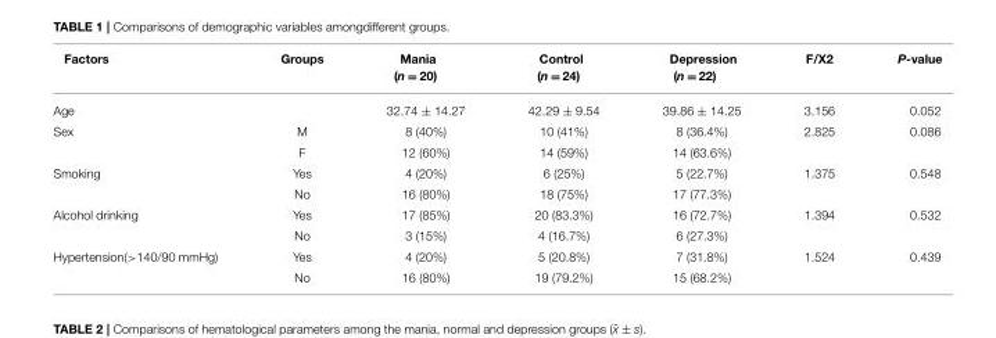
<table><thead><tr><td>Factors</td><td>Groups</td><td>Mania (n = 20)</td><td>Control (n = 24)</td><td>Depression (n = 22)</td><td>F/X2</td><td>P-value</td></tr></thead><tbody><tr><td>Age</td><td></td><td>32.74 ± 14.27</td><td>42.29 ± 9.54</td><td>39.86 ± 14.25</td><td>3.156</td><td>0.052</td></tr><tr><td rowspan="2">Sex</td><td>M</td><td>8 (40%)</td><td>10 (41%)</td><td>8 (36.4%)</td><td>2.825</td><td>0.086</td></tr><tr><td>F</td><td>12 (60%)</td><td>14 (59%)</td><td>14 (63.6%)</td><td></td><td></td></tr><tr><td rowspan="2">Smoking</td><td>Yes</td><td>4 (20%)</td><td>6 (25%)</td><td>5 (22.7%)</td><td>1.375</td><td>0.548</td></tr><tr><td>No</td><td>16 (80%)</td><td>18 (75%)</td><td>17 (77.3%)</td><td></td><td></td></tr><tr><td rowspan="2">Alcohol drinking</td><td>Yes</td><td>17 (85%)</td><td>20 (83.3%)</td><td>16 (72.7%)</td><td>1.394</td><td>0.532</td></tr><tr><td>No</td><td>3 (15%)</td><td>4 (16.7%)</td><td>6 (27.3%)</td><td></td><td></td></tr><tr><td rowspan="2">Hypertension(&gt;140/90 mmHg)</td><td>Yes</td><td>4 (20%)</td><td>5 (20.8%)</td><td>7 (31.8%)</td><td>1.524</td><td>0.439</td></tr><tr><td>No</td><td>16 (80%)</td><td>19 (79.2%)</td><td>15 (68.2%)</td><td></td><td></td></tr></tbody></table>